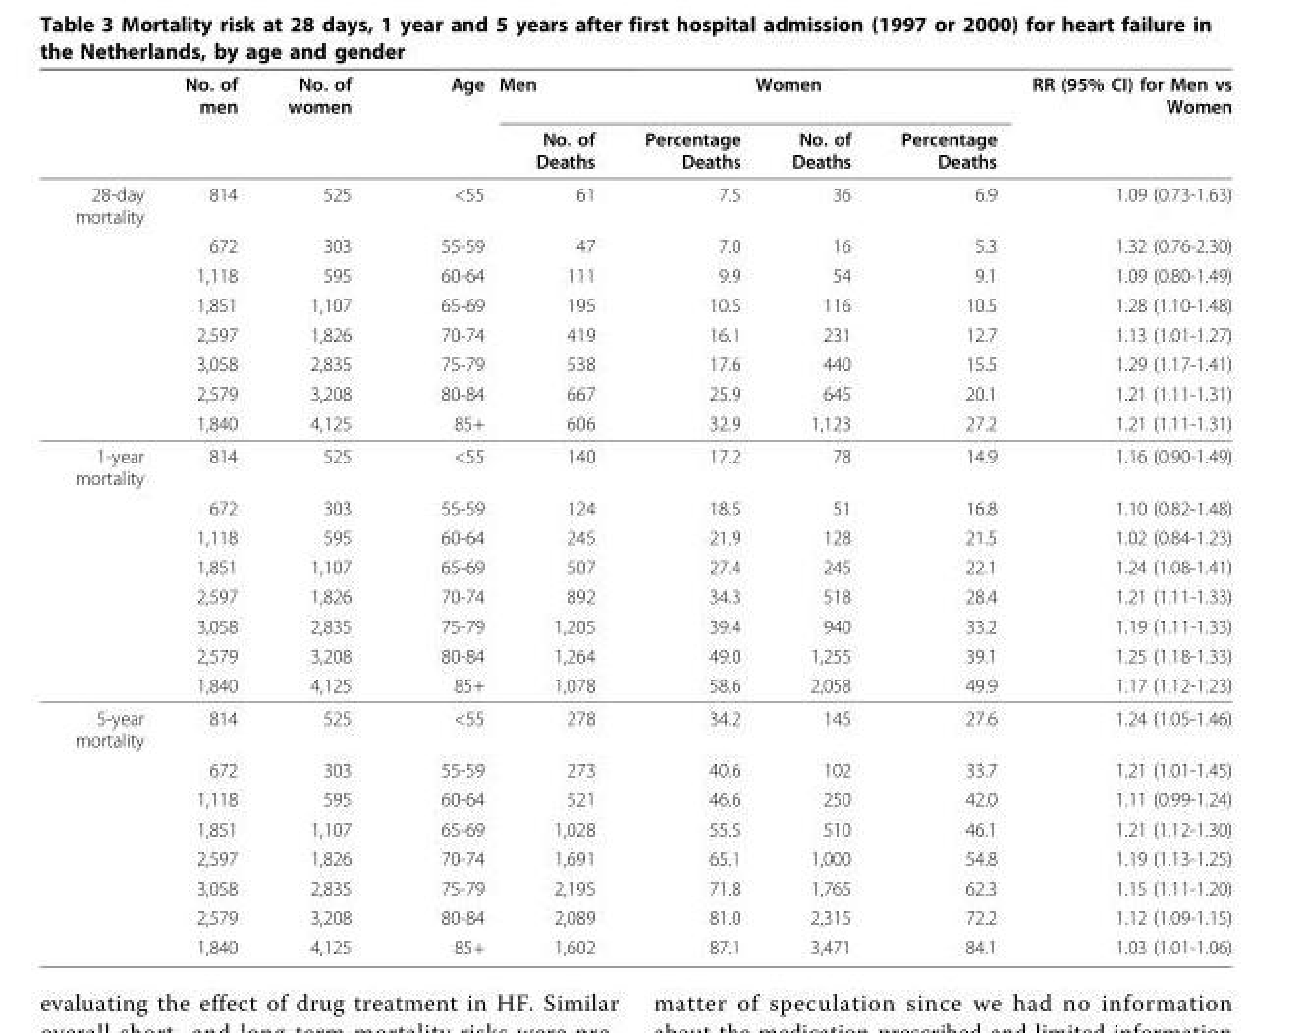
<table><thead><tr><td rowspan="2"></td><td rowspan="2">No. of men</td><td rowspan="2">No. of women</td><td rowspan="2">Age</td><td colspan="2">Men</td><td colspan="2">Women</td><td rowspan="2">RR (95% CI) for Men vs Women</td></tr><tr><td>No. of Deaths</td><td>Percentage Deaths</td><td>No. of Deaths</td><td>Percentage Deaths</td></tr></thead><tbody><tr><td rowspan="8">28-day mortality</td><td>814</td><td>525</td><td>&lt;55</td><td>61</td><td>7.5</td><td>36</td><td>6.9</td><td>1.09 (0.73-1.63)</td></tr><tr><td>672</td><td>303</td><td>55-59</td><td>47</td><td>7.0</td><td>16</td><td>5.3</td><td>1.32 (0.76-2.30)</td></tr><tr><td>1,118</td><td>595</td><td>60-64</td><td>111</td><td>9.9</td><td>54</td><td>9.1</td><td>1.09 (0.80-1.49)</td></tr><tr><td>1,851</td><td>1,107</td><td>65-69</td><td>195</td><td>10.5</td><td>116</td><td>10.5</td><td>1.28 (1.10-1.48)</td></tr><tr><td>2,597</td><td>1,826</td><td>70-74</td><td>419</td><td>16.1</td><td>231</td><td>12.7</td><td>1.13 (1.01-1.27)</td></tr><tr><td>3,058</td><td>2,835</td><td>75-79</td><td>538</td><td>17.6</td><td>440</td><td>15.5</td><td>1.29 (1.17-1.41)</td></tr><tr><td>2,579</td><td>3,208</td><td>80-84</td><td>667</td><td>25.9</td><td>645</td><td>20.1</td><td>1.21 (1.11-1.31)</td></tr><tr><td>1,840</td><td>4,125</td><td>85+</td><td>606</td><td>32.9</td><td>1,123</td><td>27.2</td><td>1.21 (1.11-1.31)</td></tr><tr><td rowspan="8">1-year mortality</td><td>814</td><td>525</td><td>&lt;55</td><td>140</td><td>17.2</td><td>78</td><td>14.9</td><td>1.16 (0.90-1.49)</td></tr><tr><td>672</td><td>303</td><td>55-59</td><td>124</td><td>18.5</td><td>51</td><td>16.8</td><td>1.10 (0.82-1.48)</td></tr><tr><td>1,118</td><td>595</td><td>60-64</td><td>245</td><td>21.9</td><td>128</td><td>21.5</td><td>1.02 (0.84-1.23)</td></tr><tr><td>1,851</td><td>1,107</td><td>65-69</td><td>507</td><td>27.4</td><td>245</td><td>22.1</td><td>1.24 (1.08-1.41)</td></tr><tr><td>2,597</td><td>1,826</td><td>70-74</td><td>892</td><td>34.3</td><td>518</td><td>28.4</td><td>1.21 (1.11-1.33)</td></tr><tr><td>3,058</td><td>2,835</td><td>75-79</td><td>1,205</td><td>39.4</td><td>940</td><td>33.2</td><td>1.19 (1.11-1.33)</td></tr><tr><td>2,579</td><td>3,208</td><td>80-84</td><td>1,264</td><td>49.0</td><td>1,255</td><td>39.1</td><td>1.25 (1.18-1.33)</td></tr><tr><td>1,840</td><td>4,125</td><td>85+</td><td>1,078</td><td>58.6</td><td>2,058</td><td>49.9</td><td>1.17 (1.12-1.23)</td></tr><tr><td rowspan="8">5-year mortality</td><td>814</td><td>525</td><td>&lt;55</td><td>278</td><td>34.2</td><td>145</td><td>27.6</td><td>1.24 (1.05-1.46)</td></tr><tr><td>672</td><td>303</td><td>55-59</td><td>273</td><td>40.6</td><td>102</td><td>33.7</td><td>1.21 (1.01-1.45)</td></tr><tr><td>1,118</td><td>595</td><td>60-64</td><td>521</td><td>46.6</td><td>250</td><td>42.0</td><td>1.11 (0.99-1.24)</td></tr><tr><td>1,851</td><td>1,107</td><td>65-69</td><td>1,028</td><td>55.5</td><td>510</td><td>46.1</td><td>1.21 (1.12-1.30)</td></tr><tr><td>2,597</td><td>1,826</td><td>70-74</td><td>1,691</td><td>65.1</td><td>1,000</td><td>54.8</td><td>1.19 (1.13-1.25)</td></tr><tr><td>3,058</td><td>2,835</td><td>75-79</td><td>2,195</td><td>71.8</td><td>1,765</td><td>62.3</td><td>1.15 (1.11-1.20)</td></tr><tr><td>2,579</td><td>3,208</td><td>80-84</td><td>2,089</td><td>81.0</td><td>2,315</td><td>72.2</td><td>1.12 (1.09-1.15)</td></tr><tr><td>1,840</td><td>4,125</td><td>85+</td><td>1,602</td><td>87.1</td><td>3,471</td><td>84.1</td><td>1.03 (1.01-1.06)</td></tr></tbody></table>